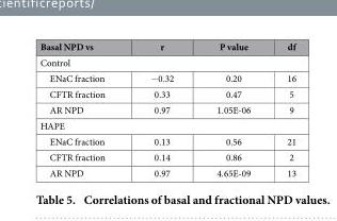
<table><thead><tr><td>Basal NPD vs</td><td>r</td><td>P value</td><td>df</td></tr></thead><tbody><tr><td colspan="4">Control</td></tr><tr><td>ENaC fraction</td><td>− 0.32</td><td>0.20</td><td>16</td></tr><tr><td>CFTR fraction</td><td>0.33</td><td>0.47</td><td>5</td></tr><tr><td>AR NPD</td><td>0.97</td><td>1.05E-06</td><td>9</td></tr><tr><td colspan="4">HAPE</td></tr><tr><td>ENaC fraction</td><td>0.13</td><td>0.56</td><td>21</td></tr><tr><td>CFTR fraction</td><td>0.14</td><td>0.86</td><td>2</td></tr><tr><td>AR NPD</td><td>0.97</td><td>4.65E-09</td><td>13</td></tr></tbody></table>